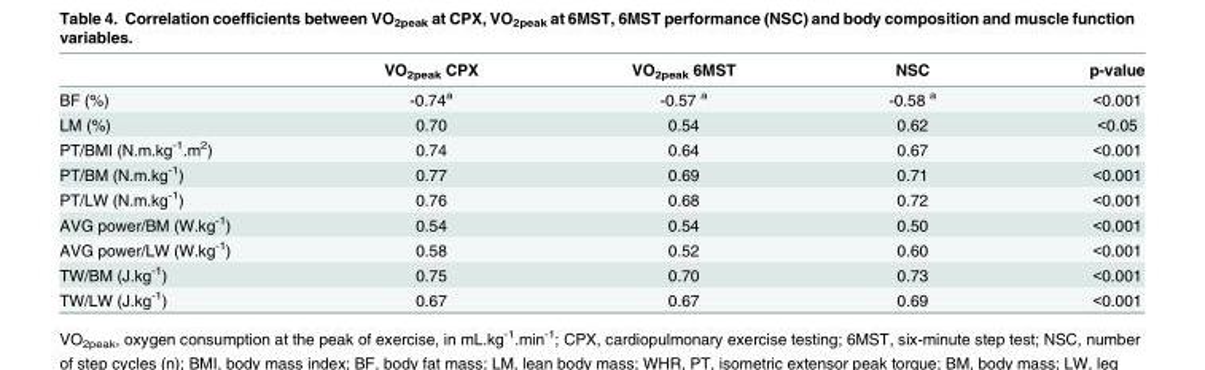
<table><thead><tr><td></td><td>VO<sub>2peak</sub> CPX</td><td>VO<sub>2peak</sub> 6MST</td><td>NSC</td><td>p-value</td></tr></thead><tbody><tr><td>BF (%)</td><td>-0.74<sup>a</sup></td><td>-0.57 <sup>a</sup></td><td>-0.58 <sup>a</sup></td><td>&lt;0.001</td></tr><tr><td>LM (%)</td><td>0.70</td><td>0.54</td><td>0.62</td><td>&lt;0.05</td></tr><tr><td>PT/BMI (N.m.kg<sup>-1</sup>.m<sup>2</sup>)</td><td>0.74</td><td>0.64</td><td>0.67</td><td>&lt;0.001</td></tr><tr><td>PT/BM (N.m.kg<sup>-1</sup>)</td><td>0.77</td><td>0.69</td><td>0.71</td><td>&lt;0.001</td></tr><tr><td>PT/LW (N.m.kg<sup>-1</sup>)</td><td>0.76</td><td>0.68</td><td>0.72</td><td>&lt;0.001</td></tr><tr><td>AVG power/BM (W.kg<sup>-1</sup>)</td><td>0.54</td><td>0.54</td><td>0.50</td><td>&lt;0.001</td></tr><tr><td>AVG power/LW (W.kg<sup>-1</sup>)</td><td>0.58</td><td>0.52</td><td>0.60</td><td>&lt;0.001</td></tr><tr><td>TW/BM (J.kg<sup>-1</sup>)</td><td>0.75</td><td>0.70</td><td>0.73</td><td>&lt;0.001</td></tr><tr><td>TW/LW (J.kg<sup>-1</sup>)</td><td>0.67</td><td>0.67</td><td>0.69</td><td>&lt;0.001</td></tr></tbody></table>